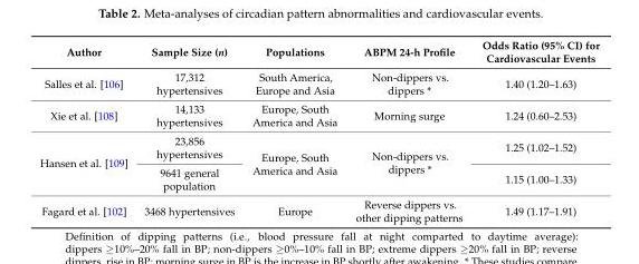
<table><thead><tr><td>Author</td><td>Sample Size (n)</td><td>Populations</td><td>ABPM 24-h Profile</td><td>Odds Ratio (95% CI) for Cardiovascular Events</td></tr></thead><tbody><tr><td>Salles et al. [106]</td><td>17,312 hypertensives</td><td>South America, Europe and Asia</td><td>Non-dippers vs. dippers *</td><td>1.40 (1.20–1.63)</td></tr><tr><td>Xie et al. [108]</td><td>14,133 hypertensives</td><td>Europe, South America and Asia</td><td>Morning surge</td><td>1.24 (0.60–2.53)</td></tr><tr><td rowspan="2">Hansen et al. [109]</td><td>23,856 hypertensives</td><td rowspan="2">Europe, South America and Asia</td><td rowspan="2">Non-dippers vs. dippers *</td><td>1.25 (1.02–1.52)</td></tr><tr><td>9641 general population</td><td>1.15 (1.00–1.33)</td></tr><tr><td>Fagard et al. [102]</td><td>3468 hypertensives</td><td>Europe</td><td>Reverse dippers vs. other dipping patterns</td><td>1.49 (1.17–1.91)</td></tr></tbody></table>